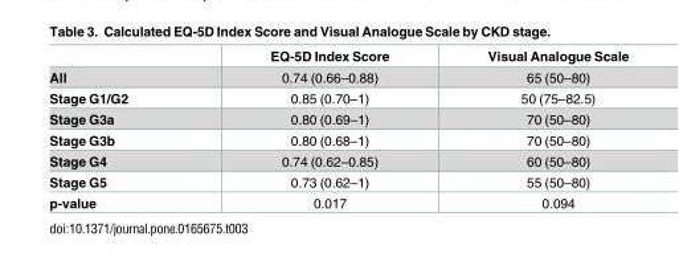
<table><thead><tr><td></td><td>EQ-5D Index Score</td><td>Visual Analogue Scale</td></tr></thead><tbody><tr><td>All</td><td>0.74 (0.66–0.88)</td><td>65 (50–80)</td></tr><tr><td>Stage G1/G2</td><td>0.85 (0.70–1)</td><td>50 (75–82.5)</td></tr><tr><td>Stage G3a</td><td>0.80 (0.69–1)</td><td>70 (50–80)</td></tr><tr><td>Stage G3b</td><td>0.80 (0.68–1)</td><td>70 (50–80)</td></tr><tr><td>Stage G4</td><td>0.74 (0.62–0.85)</td><td>60 (50–80)</td></tr><tr><td>Stage G5</td><td>0.73 (0.62–1)</td><td>55 (50–80)</td></tr><tr><td>p-value</td><td>0.017</td><td>0.094</td></tr></tbody></table>